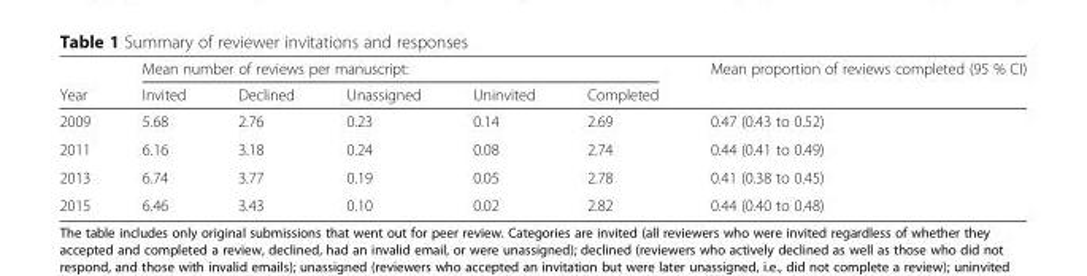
<table><thead><tr><td rowspan="2">Year</td><td colspan="5">Mean number of reviews per manuscript:</td><td rowspan="2">Mean proportion of reviews completed (95 % CI)</td></tr><tr><td>Invited</td><td>Declined</td><td>Unassigned</td><td>Uninvited</td><td>Completed</td></tr></thead><tbody><tr><td>2009</td><td>5.68</td><td>2.76</td><td>0.23</td><td>0.14</td><td>2.69</td><td>0.47 (0.43 to 0.52)</td></tr><tr><td>2011</td><td>6.16</td><td>3.18</td><td>0.24</td><td>0.08</td><td>2.74</td><td>0.44 (0.41 to 0.49)</td></tr><tr><td>2013</td><td>6.74</td><td>3.77</td><td>0.19</td><td>0.05</td><td>2.78</td><td>0.41 (0.38 to 0.45)</td></tr><tr><td>2015</td><td>6.46</td><td>3.43</td><td>0.10</td><td>0.02</td><td>2.82</td><td>0.44 (0.40 to 0.48)</td></tr></tbody></table>